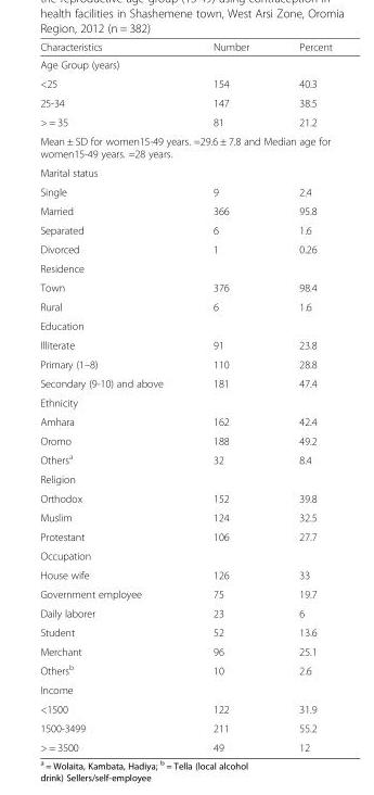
<table><thead><tr><td>Characteristics</td><td>Number</td><td>Percent</td></tr></thead><tbody><tr><td colspan="3">Age Group (years)</td></tr><tr><td>&lt;25</td><td>154</td><td>40.3</td></tr><tr><td>25-34</td><td>147</td><td>38.5</td></tr><tr><td>&gt; = 35</td><td>81</td><td>21.2</td></tr><tr><td colspan="3">Mean ± SD for women15-49 years. =29.6 ± 7.8 and Median age for women15-49 years. =28 years.</td></tr><tr><td colspan="3">Marital status</td></tr><tr><td>Single</td><td>9</td><td>2.4</td></tr><tr><td>Married</td><td>366</td><td>95.8</td></tr><tr><td>Separated</td><td>6</td><td>1.6</td></tr><tr><td>Divorced</td><td>1</td><td>0.26</td></tr><tr><td colspan="3">Residence</td></tr><tr><td>Town</td><td>376</td><td>98.4</td></tr><tr><td>Rural</td><td>6</td><td>1.6</td></tr><tr><td colspan="3">Education</td></tr><tr><td>Illiterate</td><td>91</td><td>23.8</td></tr><tr><td>Primary (1–8)</td><td>110</td><td>28.8</td></tr><tr><td>Secondary (9-10) and above</td><td>181</td><td>47.4</td></tr><tr><td colspan="3">Ethnicity</td></tr><tr><td>Amhara</td><td>162</td><td>42.4</td></tr><tr><td>Oromo</td><td>188</td><td>49.2</td></tr><tr><td>Others<sup>a</sup></td><td>32</td><td>8.4</td></tr><tr><td colspan="3">Religion</td></tr><tr><td>Orthodox</td><td>152</td><td>39.8</td></tr><tr><td>Muslim</td><td>124</td><td>32.5</td></tr><tr><td>Protestant</td><td>106</td><td>27.7</td></tr><tr><td colspan="3">Occupation</td></tr><tr><td>House wife</td><td>126</td><td>33</td></tr><tr><td>Government employee</td><td>75</td><td>19.7</td></tr><tr><td>Daily laborer</td><td>23</td><td>6</td></tr><tr><td>Student</td><td>52</td><td>13.6</td></tr><tr><td>Merchant</td><td>96</td><td>25.1</td></tr><tr><td>Others<sup>b</sup></td><td>10</td><td>2.6</td></tr><tr><td colspan="3">Income</td></tr><tr><td>&lt;1500</td><td>122</td><td>31.9</td></tr><tr><td>1500-3499</td><td>211</td><td>55.2</td></tr><tr><td>&gt; = 3500</td><td>49</td><td>12</td></tr></tbody></table>